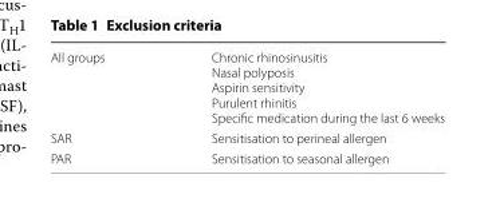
<table><tbody><tr><td>All groups</td><td>Chronic rhinosinusitis Nasal polyposis Aspirin sensitivity Purulent rhinitis Specific medication during the last 6 weeks</td></tr><tr><td>SAR</td><td>Sensitisation to perineal allergen</td></tr><tr><td>PAR</td><td>Sensitisation to seasonal allergen</td></tr></tbody></table>